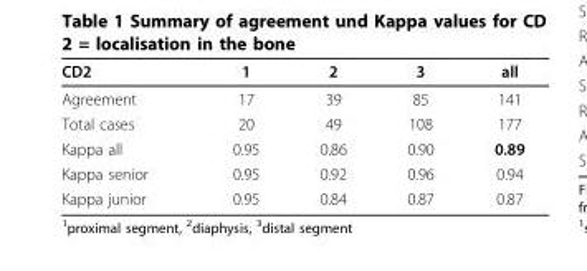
<table><thead><tr><td>CD2</td><td>1</td><td>2</td><td>3</td><td>all</td></tr></thead><tbody><tr><td>Agreement</td><td>17</td><td>39</td><td>85</td><td>141</td></tr><tr><td>Total cases</td><td>20</td><td>49</td><td>108</td><td>177</td></tr><tr><td>Kappa all</td><td>0.95</td><td>0.86</td><td>0.90</td><td>0.89</td></tr><tr><td>Kappa senior</td><td>0.95</td><td>0.92</td><td>0.96</td><td>0.94</td></tr><tr><td>Kappa junior</td><td>0.95</td><td>0.84</td><td>0.87</td><td>0.87</td></tr></tbody></table>